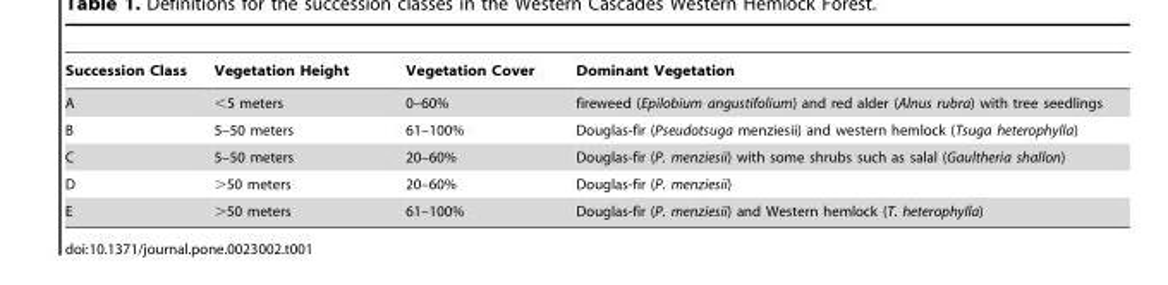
<table><thead><tr><td>Succession Class</td><td>Vegetation Height</td><td>Vegetation Cover</td><td>Dominant Vegetation</td></tr></thead><tbody><tr><td>A</td><td>&lt;5 meters</td><td>0–60%</td><td>fireweed (Epilobium angustifolium) and red alder (Alnus rubra) with tree seedlings</td></tr><tr><td>B</td><td>5–50 meters</td><td>61–100%</td><td>Douglas-fir (Pseudotsuga menziesii) and western hemlock (Tsuga heterophylla)</td></tr><tr><td>C</td><td>5–50 meters</td><td>20–60%</td><td>Douglas-fir (P. menziesii) with some shrubs such as salal (Gaultheria shallon)</td></tr><tr><td>D</td><td>&gt;50 meters</td><td>20–60%</td><td>Douglas-fir (P. menziesii)</td></tr><tr><td>E</td><td>&gt;50 meters</td><td>61–100%</td><td>Douglas-fir (P. menziesii) and Western hemlock (T. heterophylla)</td></tr></tbody></table>